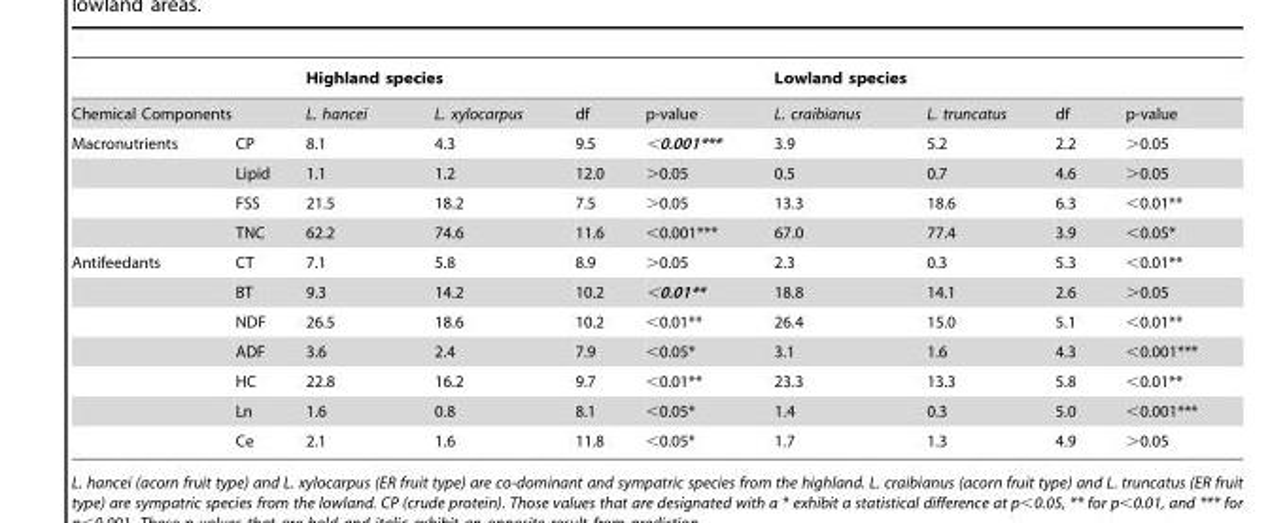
<table><thead><tr><td></td><td></td><td colspan="4">Highland species</td><td colspan="4">Lowland species</td></tr><tr><td colspan="2">Chemical Components</td><td>L. hancei</td><td>L. xylocarpus</td><td>df</td><td>p-value</td><td>L. craibianus</td><td>L. truncatus</td><td>df</td><td>p-value</td></tr></thead><tbody><tr><td rowspan="4">Macronutrients</td><td>CP</td><td>8.1</td><td>4.3</td><td>9.5</td><td>&lt;0.001***</td><td>3.9</td><td>5.2</td><td>2.2</td><td>&gt;0.05</td></tr><tr><td>Lipid</td><td>1.1</td><td>1.2</td><td>12.0</td><td>&gt;0.05</td><td>0.5</td><td>0.7</td><td>4.6</td><td>&gt;0.05</td></tr><tr><td>FSS</td><td>21.5</td><td>18.2</td><td>7.5</td><td>&gt;0.05</td><td>13.3</td><td>18.6</td><td>6.3</td><td>&lt;0.01**</td></tr><tr><td>TNC</td><td>62.2</td><td>74.6</td><td>11.6</td><td>&lt;0.001***</td><td>67.0</td><td>77.4</td><td>3.9</td><td>&lt;0.05*</td></tr><tr><td rowspan="7">Antifeedants</td><td>CT</td><td>7.1</td><td>5.8</td><td>8.9</td><td>&gt;0.05</td><td>2.3</td><td>0.3</td><td>5.3</td><td>&lt;0.01**</td></tr><tr><td>BT</td><td>9.3</td><td>14.2</td><td>10.2</td><td>&lt;0.01**</td><td>18.8</td><td>14.1</td><td>2.6</td><td>&gt;0.05</td></tr><tr><td>NDF</td><td>26.5</td><td>18.6</td><td>10.2</td><td>&lt;0.01**</td><td>26.4</td><td>15.0</td><td>5.1</td><td>&lt;0.01**</td></tr><tr><td>ADF</td><td>3.6</td><td>2.4</td><td>7.9</td><td>&lt;0.05*</td><td>3.1</td><td>1.6</td><td>4.3</td><td>&lt;0.001***</td></tr><tr><td>HC</td><td>22.8</td><td>16.2</td><td>9.7</td><td>&lt;0.01**</td><td>23.3</td><td>13.3</td><td>5.8</td><td>&lt;0.01**</td></tr><tr><td>Ln</td><td>1.6</td><td>0.8</td><td>8.1</td><td>&lt;0.05*</td><td>1.4</td><td>0.3</td><td>5.0</td><td>&lt;0.001***</td></tr><tr><td>Ce</td><td>2.1</td><td>1.6</td><td>11.8</td><td>&lt;0.05*</td><td>1.7</td><td>1.3</td><td>4.9</td><td>&gt;0.05</td></tr></tbody></table>